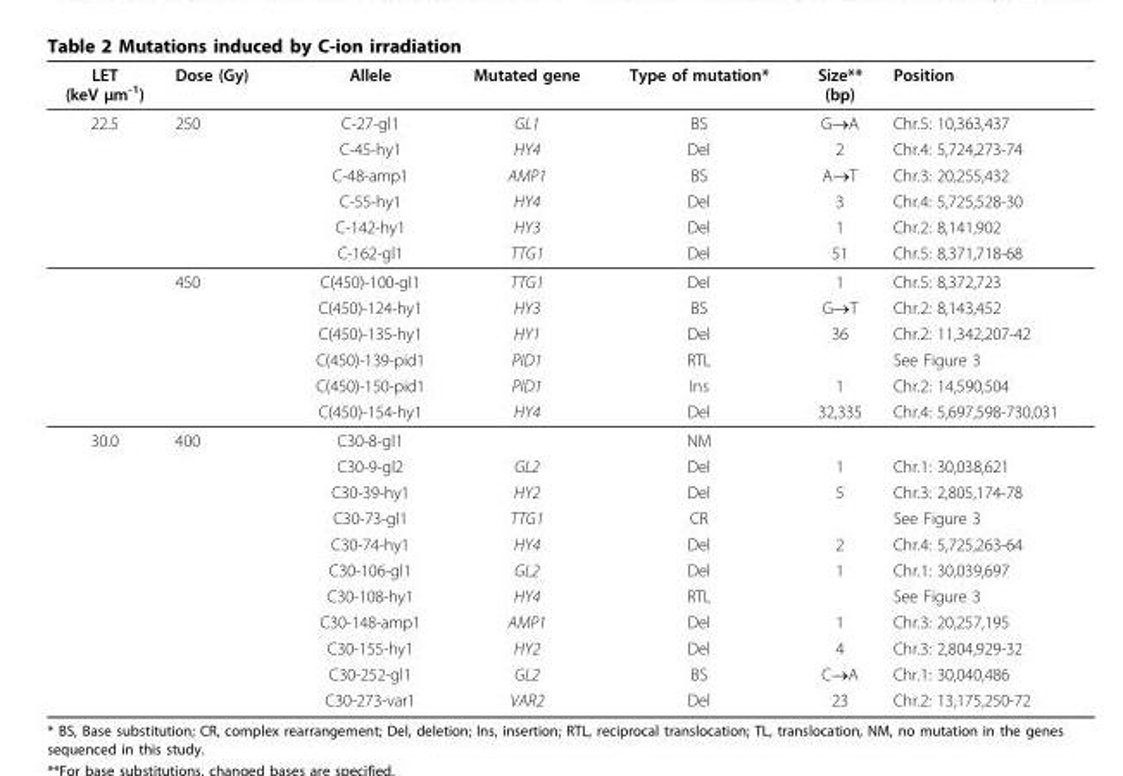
<table><thead><tr><td>LET (keV μm<sup>-1</sup>)</td><td>Dose (Gy)</td><td>Allele</td><td>Mutated gene</td><td>Type of mutation*</td><td>Size** (bp)</td><td>Position</td></tr></thead><tbody><tr><td rowspan="12">22.5</td><td>250</td><td>C-27-gl1</td><td>GL1</td><td>BS</td><td>G→A</td><td>Chr.5: 10,363,437</td></tr><tr><td></td><td>C-45-hy1</td><td>HY4</td><td>Del</td><td>2</td><td>Chr.4: 5,724,273-74</td></tr><tr><td></td><td>C-48-amp1</td><td>AMP1</td><td>BS</td><td>A→T</td><td>Chr.3: 20,255,432</td></tr><tr><td></td><td>C-55-hy1</td><td>HY4</td><td>Del</td><td>3</td><td>Chr.4: 5,725,528-30</td></tr><tr><td></td><td>C-142-hy1</td><td>HY3</td><td>Del</td><td>1</td><td>Chr.2: 8,141,902</td></tr><tr><td></td><td>C-162-gl1</td><td>TTG1</td><td>Del</td><td>51</td><td>Chr.5: 8,371,718-68</td></tr><tr><td>450</td><td>C(450)-100-gl1</td><td>TTG1</td><td>Del</td><td>1</td><td>Chr.5: 8,372,723</td></tr><tr><td></td><td>C(450)-124-hy1</td><td>HY3</td><td>BS</td><td>G→T</td><td>Chr.2: 8,143,452</td></tr><tr><td></td><td>C(450)-135-hy1</td><td>HY1</td><td>Del</td><td>36</td><td>Chr.2: 11,342,207-42</td></tr><tr><td></td><td>C(450)-139-pid1</td><td>PID1</td><td>RTL</td><td></td><td>See Figure 3</td></tr><tr><td></td><td>C(450)-150-pid1</td><td>PID1</td><td>Ins</td><td>1</td><td>Chr.2: 14,590,504</td></tr><tr><td></td><td>C(450)-154-hy1</td><td>HY4</td><td>Del</td><td>32,335</td><td>Chr.4: 5,697,598-730,031</td></tr><tr><td rowspan="11">30.0</td><td>400</td><td>C30-8-gl1</td><td></td><td>NM</td><td></td><td></td></tr><tr><td></td><td>C30-9-gl2</td><td>GL2</td><td>Del</td><td>1</td><td>Chr.1: 30,038,621</td></tr><tr><td></td><td>C30-39-hy1</td><td>HY2</td><td>Del</td><td>5</td><td>Chr.3: 2,805,174-78</td></tr><tr><td></td><td>C30-73-gl1</td><td>TTG1</td><td>CR</td><td></td><td>See Figure 3</td></tr><tr><td></td><td>C30-74-hy1</td><td>HY4</td><td>Del</td><td>2</td><td>Chr.4: 5,725,263-64</td></tr><tr><td></td><td>C30-106-gl1</td><td>GL2</td><td>Del</td><td>1</td><td>Chr.1: 30,039,697</td></tr><tr><td></td><td>C30-108-hy1</td><td>HY4</td><td>RTL</td><td></td><td>See Figure 3</td></tr><tr><td></td><td>C30-148-amp1</td><td>AMP1</td><td>Del</td><td>1</td><td>Chr.3: 20,257,195</td></tr><tr><td></td><td>C30-155-hy1</td><td>HY2</td><td>Del</td><td>4</td><td>Chr.3: 2,804,929-32</td></tr><tr><td></td><td>C30-252-gl1</td><td>GL2</td><td>BS</td><td>C→A</td><td>Chr.1: 30,040,486</td></tr><tr><td></td><td>C30-273-var1</td><td>VAR2</td><td>Del</td><td>23</td><td>Chr.2: 13,175,250-72</td></tr></tbody></table>